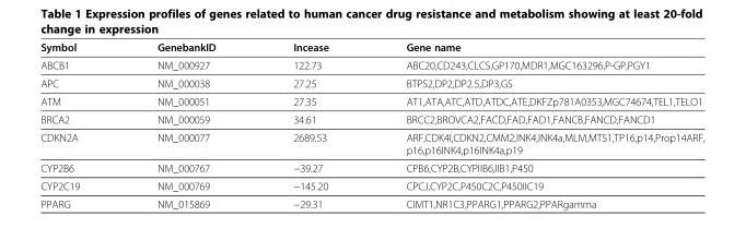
<table><thead><tr><td>Symbol</td><td>GenebankID</td><td>Incease</td><td>Gene name</td></tr></thead><tbody><tr><td>ABCB1</td><td>NM_000927</td><td>122.73</td><td>ABC20,CD243,CLCS,GP170,MDR1,MGC163296,P-GP,PGY1</td></tr><tr><td>APC</td><td>NM_000038</td><td>27.25</td><td>BTPS2,DP2,DP2.5,DP3,GS</td></tr><tr><td>ATM</td><td>NM_000051</td><td>27.35</td><td>AT1,ATA,ATC,ATD,ATDC,ATE,DKFZp781A0353,MGC74674,TEL1,TELO1</td></tr><tr><td>BRCA2</td><td>NM_000059</td><td>34.61</td><td>BRCC2,BROVCA2,FACD,FAD,FAD1,FANCB,FANCD,FANCD1</td></tr><tr><td>CDKN2A</td><td>NM_000077</td><td>2689.53</td><td>ARF,CDK4I,CDKN2,CMM2,INK4,INK4a,MLM,MTS1,TP16,p14,Prop14ARF, p16,p16INK4,p16INK4a,p19</td></tr><tr><td>CYP2B6</td><td>NM_000767</td><td>−39.27</td><td>CPB6,CYP2B,CYPIIB6,IIB1,P450</td></tr><tr><td>CYP2C19</td><td>NM_000769</td><td>−145.20</td><td>CPCJ,CYP2C,P450C2C,P450IIC19</td></tr><tr><td>PPARG</td><td>NM_015869</td><td>−29.31</td><td>CIMT1,NR1C3,PPARG1,PPARG2,PPARgamma</td></tr></tbody></table>